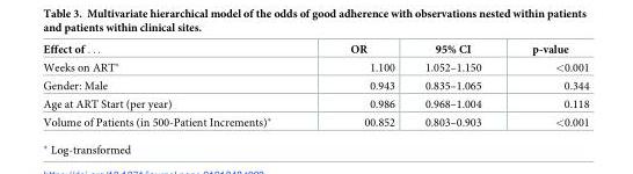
<table><thead><tr><td>Effect of . . .</td><td>OR</td><td>95% CI</td><td>p-value</td></tr></thead><tbody><tr><td>Weeks on ART*</td><td>1.100</td><td>1.052–1.150</td><td>&lt;0.001</td></tr><tr><td>Gender: Male</td><td>0.943</td><td>0.835–1.065</td><td>0.344</td></tr><tr><td>Age at ART Start (per year)</td><td>0.986</td><td>0.968–1.004</td><td>0.118</td></tr><tr><td>Volume of Patients (in 500-Patient Increments)*</td><td>00.852</td><td>0.803–0.903</td><td>&lt;0.001</td></tr></tbody></table>